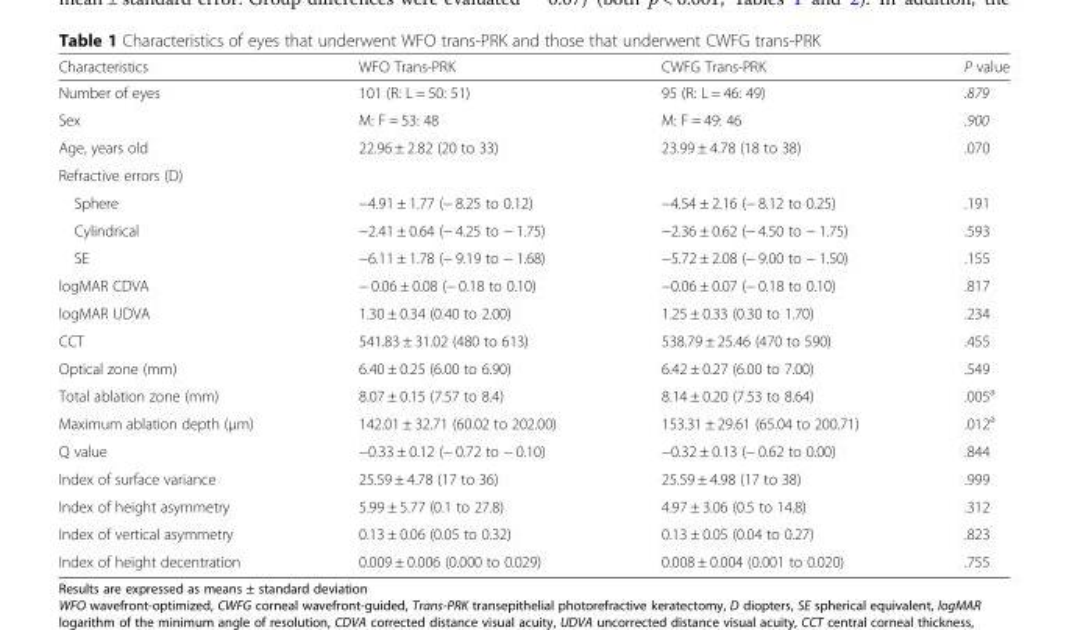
<table><thead><tr><td>Characteristics</td><td>WFO Trans-PRK</td><td>CWFG Trans-PRK</td><td>P value</td></tr></thead><tbody><tr><td>Number of eyes</td><td>101 (R: L = 50: 51)</td><td>95 (R: L = 46: 49)</td><td>.879</td></tr><tr><td>Sex</td><td>M: F = 53: 48</td><td>M: F = 49: 46</td><td>.900</td></tr><tr><td>Age, years old</td><td>22.96 ± 2.82 (20 to 33)</td><td>23.99 ± 4.78 (18 to 38)</td><td>.070</td></tr><tr><td colspan="4">Refractive errors (D)</td></tr><tr><td>Sphere</td><td>−4.91 ± 1.77 (− 8.25 to 0.12)</td><td>−4.54 ± 2.16 (− 8.12 to 0.25)</td><td>.191</td></tr><tr><td>Cylindrical</td><td>−2.41 ± 0.64 (− 4.25 to − 1.75)</td><td>−2.36 ± 0.62 (− 4.50 to − 1.75)</td><td>.593</td></tr><tr><td>SE</td><td>−6.11 ± 1.78 (− 9.19 to − 1.68)</td><td>−5.72 ± 2.08 (− 9.00 to − 1.50)</td><td>.155</td></tr><tr><td>logMAR CDVA</td><td>− 0.06 ± 0.08 (− 0.18 to 0.10)</td><td>−0.06 ± 0.07 (− 0.18 to 0.10)</td><td>.817</td></tr><tr><td>logMAR UDVA</td><td>1.30 ± 0.34 (0.40 to 2.00)</td><td>1.25 ± 0.33 (0.30 to 1.70)</td><td>.234</td></tr><tr><td>CCT</td><td>541.83 ± 31.02 (480 to 613)</td><td>538.79 ± 25.46 (470 to 590)</td><td>.455</td></tr><tr><td>Optical zone (mm)</td><td>6.40 ± 0.25 (6.00 to 6.90)</td><td>6.42 ± 0.27 (6.00 to 7.00)</td><td>.549</td></tr><tr><td>Total ablation zone (mm)</td><td>8.07 ± 0.15 (7.57 to 8.4)</td><td>8.14 ± 0.20 (7.53 to 8.64)</td><td>.005<sup>a</sup></td></tr><tr><td>Maximum ablation depth (μm)</td><td>142.01 ± 32.71 (60.02 to 202.00)</td><td>153.31 ± 29.61 (65.04 to 200.71)</td><td>.012<sup>a</sup></td></tr><tr><td>Q value</td><td>−0.33 ± 0.12 (− 0.72 to − 0.10)</td><td>−0.32 ± 0.13 (− 0.62 to 0.00)</td><td>.844</td></tr><tr><td>Index of surface variance</td><td>25.59 ± 4.78 (17 to 36)</td><td>25.59 ± 4.98 (17 to 38)</td><td>.999</td></tr><tr><td>Index of height asymmetry</td><td>5.99 ± 5.77 (0.1 to 27.8)</td><td>4.97 ± 3.06 (0.5 to 14.8)</td><td>.312</td></tr><tr><td>Index of vertical asymmetry</td><td>0.13 ± 0.06 (0.05 to 0.32)</td><td>0.13 ± 0.05 (0.04 to 0.27)</td><td>.823</td></tr><tr><td>Index of height decentration</td><td>0.009 ± 0.006 (0.000 to 0.029)</td><td>0.008 ± 0.004 (0.001 to 0.020)</td><td>.755</td></tr></tbody></table>